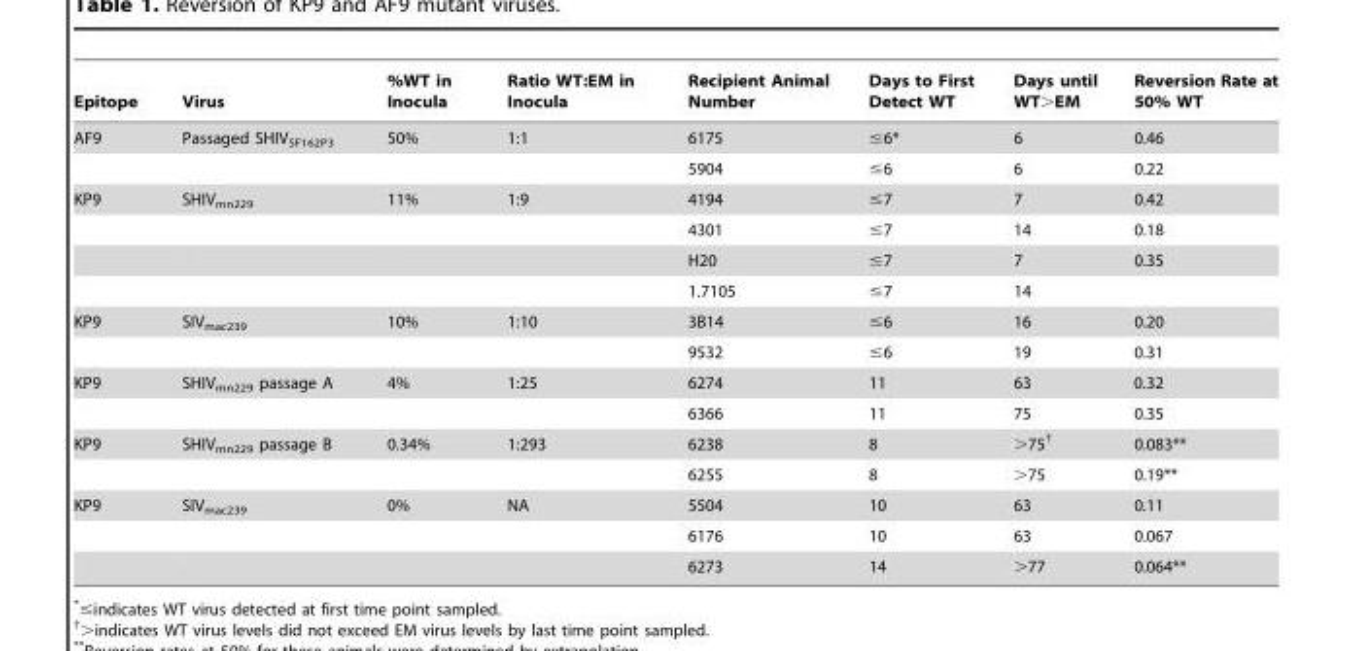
<table><thead><tr><td>Epitope</td><td>Virus</td><td>%WT in Inocula</td><td>Ratio WT:EM in Inocula</td><td>Recipient Animal Number</td><td>Days to First Detect WT</td><td>Days until WT&gt;EM</td><td>Reversion Rate at 50% WT</td></tr></thead><tbody><tr><td rowspan="2">AF9</td><td>Passaged SHIV<sub>SF162P3</sub></td><td>50%</td><td>1:1</td><td>6175</td><td>≤6*</td><td>6</td><td>0.46</td></tr><tr><td></td><td></td><td></td><td>5904</td><td>≤6</td><td>6</td><td>0.22</td></tr><tr><td rowspan="4">KP9</td><td>SHIV<sub>mn229</sub></td><td>11%</td><td>1:9</td><td>4194</td><td>≤7</td><td>7</td><td>0.42</td></tr><tr><td></td><td></td><td></td><td>4301</td><td>≤7</td><td>14</td><td>0.18</td></tr><tr><td></td><td></td><td></td><td>H20</td><td>≤7</td><td>7</td><td>0.35</td></tr><tr><td></td><td></td><td></td><td>1.7105</td><td>≤7</td><td>14</td><td></td></tr><tr><td rowspan="2">KP9</td><td>SIV<sub>mac239</sub></td><td>10%</td><td>1:10</td><td>3B14</td><td>≤6</td><td>16</td><td>0.20</td></tr><tr><td></td><td></td><td></td><td>9532</td><td>≤6</td><td>19</td><td>0.31</td></tr><tr><td rowspan="2">KP9</td><td>SHIV<sub>mn229</sub> passage A</td><td>4%</td><td>1:25</td><td>6274</td><td>11</td><td>63</td><td>0.32</td></tr><tr><td></td><td></td><td></td><td>6366</td><td>11</td><td>75</td><td>0.35</td></tr><tr><td rowspan="2">KP9</td><td>SHIV<sub>mn229</sub> passage B</td><td>0.34%</td><td>1:293</td><td>6238</td><td>8</td><td>&gt;75†</td><td>0.083**</td></tr><tr><td></td><td></td><td></td><td>6255</td><td>8</td><td>&gt;75</td><td>0.19**</td></tr><tr><td rowspan="3">KP9</td><td>SIV<sub>mac239</sub></td><td>0%</td><td>NA</td><td>5504</td><td>10</td><td>63</td><td>0.11</td></tr><tr><td></td><td></td><td></td><td>6176</td><td>10</td><td>63</td><td>0.067</td></tr><tr><td></td><td></td><td></td><td>6273</td><td>14</td><td>&gt;77</td><td>0.064**</td></tr></tbody></table>